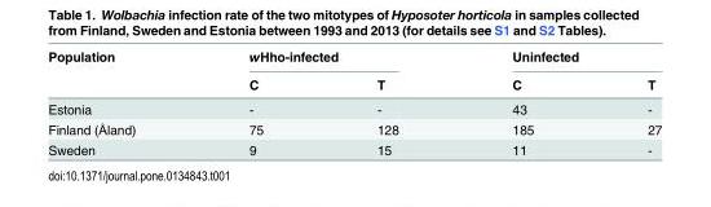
<table><thead><tr><td rowspan="2">Population</td><td colspan="2">wHho-infected</td><td colspan="2">Uninfected</td></tr><tr><td>C</td><td>T</td><td>C</td><td>T</td></tr></thead><tbody><tr><td>Estonia</td><td>-</td><td>-</td><td>43</td><td>-</td></tr><tr><td>Finland (Åland)</td><td>75</td><td>128</td><td>185</td><td>27</td></tr><tr><td>Sweden</td><td>9</td><td>15</td><td>11</td><td>-</td></tr></tbody></table>